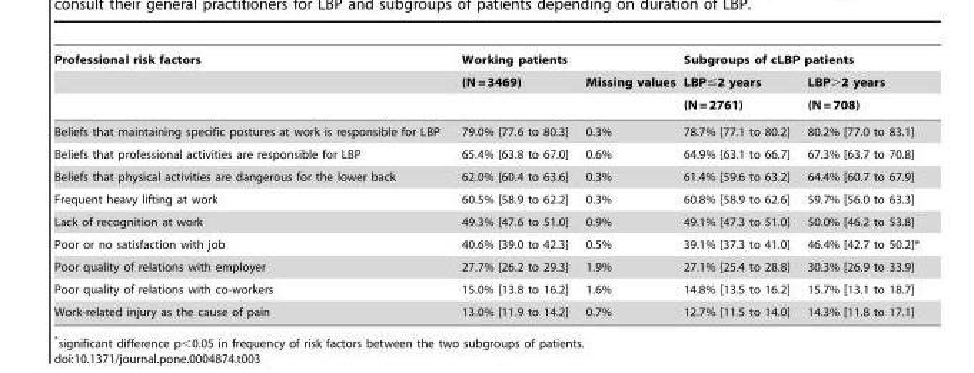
<table><thead><tr><td rowspan="3">Professional risk factors</td><td colspan="2">Working patients</td><td colspan="2">Subgroups of cLBP patients</td></tr><tr><td rowspan="2">(N = 3469)</td><td rowspan="2">Missing values</td><td rowspan="2">LBP≤2 years (N = 2761)</td><td rowspan="2">LBP&gt;2 years (N = 708)</td></tr><tr></tr></thead><tbody><tr><td>Beliefs that maintaining specific postures at work is responsible for LBP</td><td>79.0% [77.6 to 80.3]</td><td>0.3%</td><td>78.7% [77.1 to 80.2]</td><td>80.2% [77.0 to 83.1]</td></tr><tr><td>Beliefs that professional activities are responsible for LBP</td><td>65.4% [63.8 to 67.0]</td><td>0.6%</td><td>64.9% [63.1 to 66.7]</td><td>67.3% [63.7 to 70.8]</td></tr><tr><td>Beliefs that physical activities are dangerous for the lower back</td><td>62.0% [60.4 to 63.6]</td><td>0.3%</td><td>61.4% [59.6 to 63.2]</td><td>64.4% [60.7 to 67.9]</td></tr><tr><td>Frequent heavy lifting at work</td><td>60.5% [58.9 to 62.2]</td><td>0.3%</td><td>60.8% [58.9 to 62.6]</td><td>59.7% [56.0 to 63.3]</td></tr><tr><td>Lack of recognition at work</td><td>49.3% [47.6 to 51.0]</td><td>0.9%</td><td>49.1% [47.3 to 51.0]</td><td>50.0% [46.2 to 53.8]</td></tr><tr><td>Poor or no satisfaction with job</td><td>40.6% [39.0 to 42.3]</td><td>0.5%</td><td>39.1% [37.3 to 41.0]</td><td>46.4% [42.7 to 50.2]*</td></tr><tr><td>Poor quality of relations with employer</td><td>27.7% [26.2 to 29.3]</td><td>1.9%</td><td>27.1% [25.4 to 28.8]</td><td>30.3% [26.9 to 33.9]</td></tr><tr><td>Poor quality of relations with co-workers</td><td>15.0% [13.8 to 16.2]</td><td>1.6%</td><td>14.8% [13.5 to 16.2]</td><td>15.7% [13.1 to 18.7]</td></tr><tr><td>Work-related injury as the cause of pain</td><td>13.0% [11.9 to 14.2]</td><td>0.7%</td><td>12.7% [11.5 to 14.0]</td><td>14.3% [11.8 to 17.1]</td></tr></tbody></table>